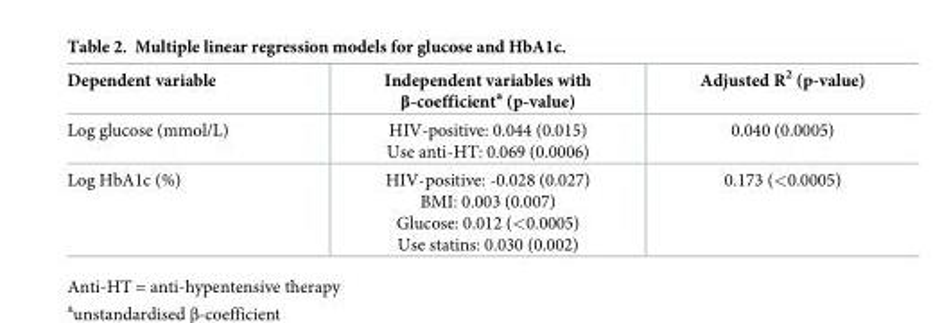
<table><thead><tr><td>Dependent variable</td><td>Independent variables with β-coefficient<sup>a</sup> (p-value)</td><td>Adjusted R<sup>2</sup> (p-value)</td></tr></thead><tbody><tr><td>Log glucose (mmol/L)</td><td>HIV-positive: 0.044 (0.015) Use anti-HT: 0.069 (0.0006)</td><td>0.040 (0.0005)</td></tr><tr><td>Log HbA1c (%)</td><td>HIV-positive: -0.028 (0.027) BMI: 0.003 (0.007) Glucose: 0.012 (&lt;0.0005) Use statins: 0.030 (0.002)</td><td>0.173 (&lt;0.0005)</td></tr></tbody></table>